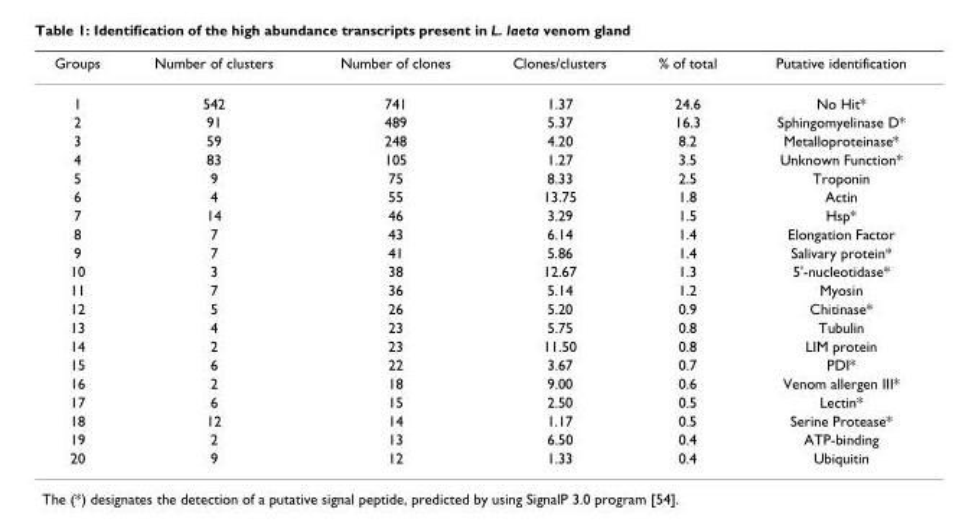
<table><thead><tr><td>Groups</td><td>Number of clusters</td><td>Number of clones</td><td>Clones/clusters</td><td>% of total</td><td>Putative identification</td></tr></thead><tbody><tr><td>1</td><td>542</td><td>741</td><td>1.37</td><td>24.6</td><td>No Hit*</td></tr><tr><td>2</td><td>91</td><td>489</td><td>5.37</td><td>16.3</td><td>Sphingomyelinase D*</td></tr><tr><td>3</td><td>59</td><td>248</td><td>4.20</td><td>8.2</td><td>Metalloproteinase*</td></tr><tr><td>4</td><td>83</td><td>105</td><td>1.27</td><td>3.5</td><td>Unknown Function*</td></tr><tr><td>5</td><td>9</td><td>75</td><td>8.33</td><td>2.5</td><td>Troponin</td></tr><tr><td>6</td><td>4</td><td>55</td><td>13.75</td><td>1.8</td><td>Actin</td></tr><tr><td>7</td><td>14</td><td>46</td><td>3.29</td><td>1.5</td><td>Hsp*</td></tr><tr><td>8</td><td>7</td><td>43</td><td>6.14</td><td>1.4</td><td>Elongation Factor</td></tr><tr><td>9</td><td>7</td><td>41</td><td>5.86</td><td>1.4</td><td>Salivary protein*</td></tr><tr><td>10</td><td>3</td><td>38</td><td>12.67</td><td>1.3</td><td>5&#x27;-nucleotidase*</td></tr><tr><td>11</td><td>7</td><td>36</td><td>5.14</td><td>1.2</td><td>Myosin</td></tr><tr><td>12</td><td>5</td><td>26</td><td>5.20</td><td>0.9</td><td>Chitinase*</td></tr><tr><td>13</td><td>4</td><td>23</td><td>5.75</td><td>0.8</td><td>Tubulin</td></tr><tr><td>14</td><td>2</td><td>23</td><td>11.50</td><td>0.8</td><td>LIM protein</td></tr><tr><td>15</td><td>6</td><td>22</td><td>3.67</td><td>0.7</td><td>PDI*</td></tr><tr><td>16</td><td>2</td><td>18</td><td>9.00</td><td>0.6</td><td>Venom allergen III*</td></tr><tr><td>17</td><td>6</td><td>15</td><td>2.50</td><td>0.5</td><td>Lectin*</td></tr><tr><td>18</td><td>12</td><td>14</td><td>1.17</td><td>0.5</td><td>Serine Protease*</td></tr><tr><td>19</td><td>2</td><td>13</td><td>6.50</td><td>0.4</td><td>ATP-binding</td></tr><tr><td>20</td><td>9</td><td>12</td><td>1.33</td><td>0.4</td><td>Ubiquitin</td></tr></tbody></table>